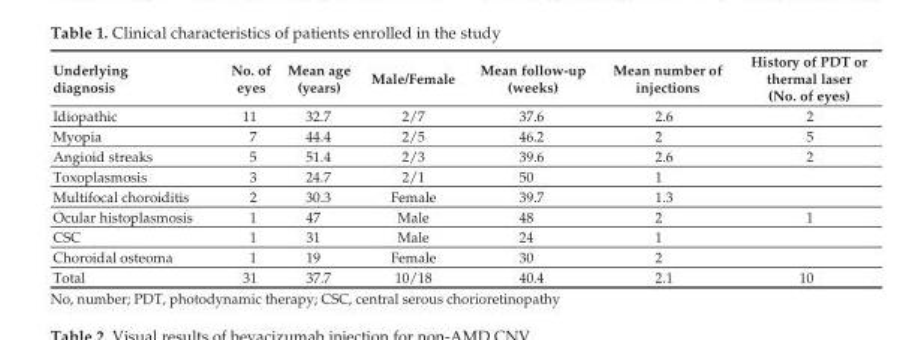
<table><thead><tr><td>Underlying diagnosis</td><td>No. of eyes</td><td>Mean age (years)</td><td>Male/Female</td><td>Mean follow-up (weeks)</td><td>Mean number of injections</td><td>History of PDT or thermal laser (No. of eyes)</td></tr></thead><tbody><tr><td>Idiopathic</td><td>11</td><td>32.7</td><td>2/7</td><td>37.6</td><td>2.6</td><td>2</td></tr><tr><td>Myopia</td><td>7</td><td>44.4</td><td>2/5</td><td>46.2</td><td>2</td><td>5</td></tr><tr><td>Angioid streaks</td><td>5</td><td>51.4</td><td>2/3</td><td>39.6</td><td>2.6</td><td>2</td></tr><tr><td>Toxoplasmosis</td><td>3</td><td>24.7</td><td>2/1</td><td>50</td><td>1</td><td></td></tr><tr><td>Multifocal choroiditis</td><td>2</td><td>30.3</td><td>Female</td><td>39.7</td><td>1.3</td><td></td></tr><tr><td>Ocular histoplasmosis</td><td>1</td><td>47</td><td>Male</td><td>48</td><td>2</td><td>1</td></tr><tr><td>CSC</td><td>1</td><td>31</td><td>Male</td><td>24</td><td>1</td><td></td></tr><tr><td>Choroidal osteoma</td><td>1</td><td>19</td><td>Female</td><td>30</td><td>2</td><td></td></tr><tr><td>Total</td><td>31</td><td>37.7</td><td>10/18</td><td>40.4</td><td>2.1</td><td>10</td></tr></tbody></table>